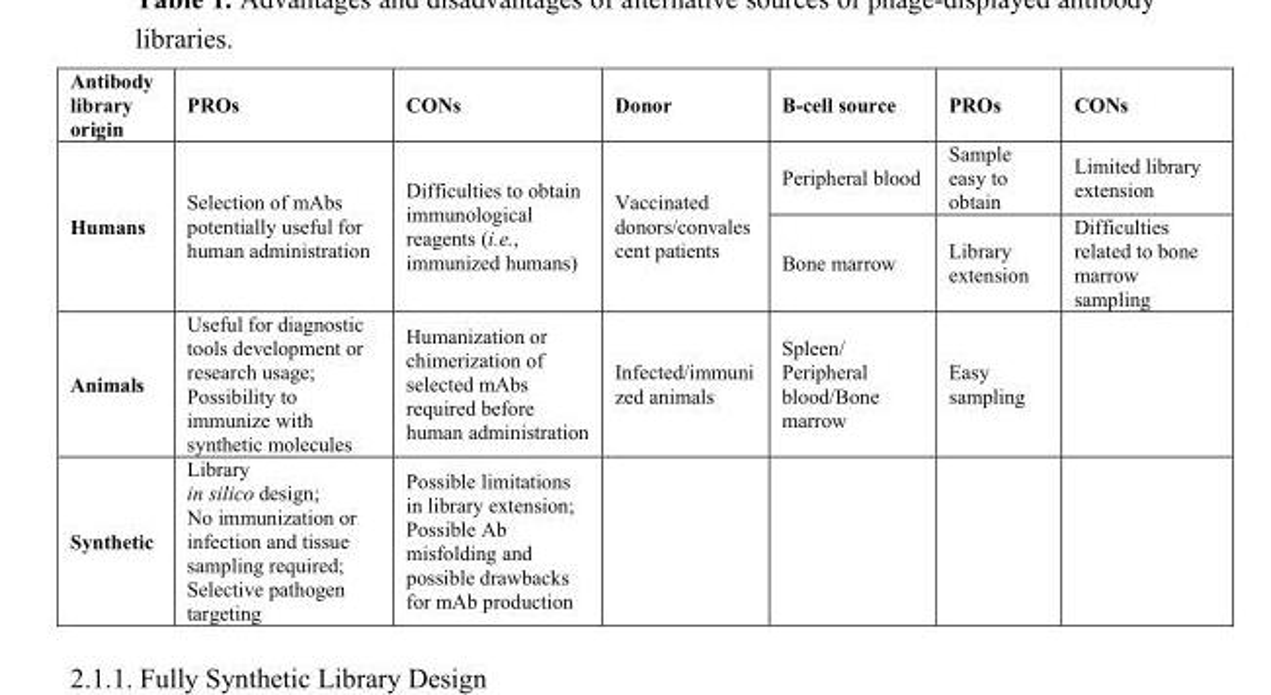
<table><thead><tr><td>Antibody library origin</td><td>PROs</td><td>CONs</td><td>Donor</td><td>B-cell source</td><td>PROs</td><td>CONs</td></tr></thead><tbody><tr><td rowspan="2">Humans</td><td rowspan="2">Selection of mAbs potentially useful for human administration</td><td rowspan="2">Difficulties to obtain immunological reagents (i.e., immunized humans)</td><td rowspan="2">Vaccinated donors/convales cent patients</td><td>Peripheral blood</td><td>Sample easy to obtain</td><td>Limited library extension</td></tr><tr><td>Bone marrow</td><td>Library extension</td><td>Difficulties related to bone marrow sampling</td></tr><tr><td>Animals</td><td>Useful for diagnostic tools development or research usage; Possibility to immunize with synthetic molecules</td><td>Humanization or chimerization of selected mAbs required before human administration</td><td>Infected/immuni zed animals</td><td>Spleen/ Peripheral blood/Bone marrow</td><td>Easy sampling</td><td></td></tr><tr><td>Synthetic</td><td>Library in silico design; No immunization or infection and tissue sampling required; Selective pathogen targeting</td><td>Possible limitations in library extension; Possible Ab misfolding and possible drawbacks for mAb production</td><td></td><td></td><td></td><td></td></tr></tbody></table>